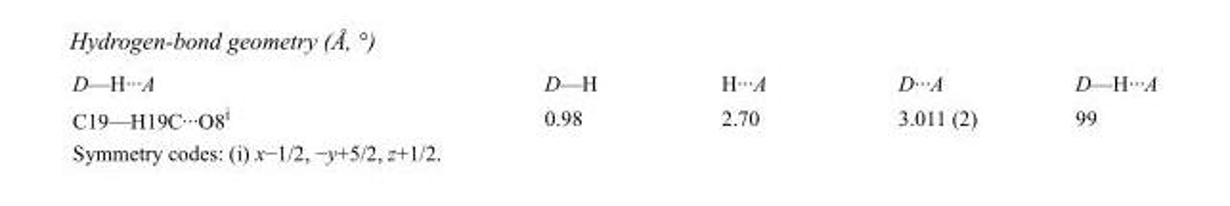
<table><tbody><tr><td>D—H···A</td><td>D—H</td><td>H···A</td><td>D···A</td><td>D—H···A</td></tr><tr><td>C19—H19C···O8<sup>i</sup></td><td>0.98</td><td>2.70</td><td>3.011 (2)</td><td>99</td></tr></tbody></table>